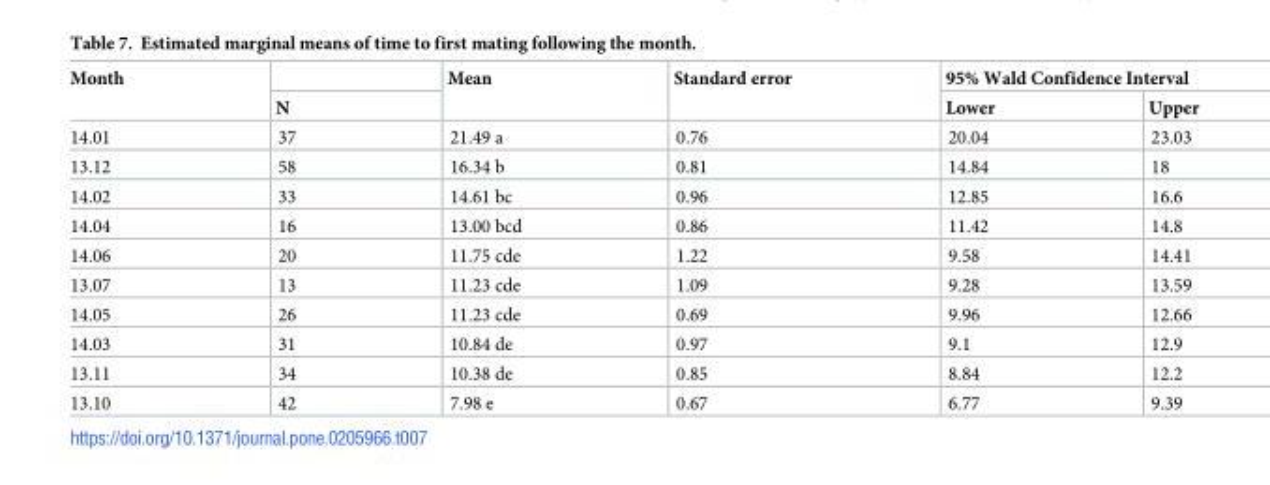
<table><thead><tr><td rowspan="2">Month</td><td rowspan="2">N</td><td rowspan="2">Mean</td><td rowspan="2">Standard error</td><td colspan="2">95% Wald Confidence Interval</td></tr><tr><td>Lower</td><td>Upper</td></tr></thead><tbody><tr><td>14.01</td><td>37</td><td>21.49 a</td><td>0.76</td><td>20.04</td><td>23.03</td></tr><tr><td>13.12</td><td>58</td><td>16.34 b</td><td>0.81</td><td>14.84</td><td>18</td></tr><tr><td>14.02</td><td>33</td><td>14.61 bc</td><td>0.96</td><td>12.85</td><td>16.6</td></tr><tr><td>14.04</td><td>16</td><td>13.00 bcd</td><td>0.86</td><td>11.42</td><td>14.8</td></tr><tr><td>14.06</td><td>20</td><td>11.75 cde</td><td>1.22</td><td>9.58</td><td>14.41</td></tr><tr><td>13.07</td><td>13</td><td>11.23 cde</td><td>1.09</td><td>9.28</td><td>13.59</td></tr><tr><td>14.05</td><td>26</td><td>11.23 cde</td><td>0.69</td><td>9.96</td><td>12.66</td></tr><tr><td>14.03</td><td>31</td><td>10.84 de</td><td>0.97</td><td>9.1</td><td>12.9</td></tr><tr><td>13.11</td><td>34</td><td>10.38 de</td><td>0.85</td><td>8.84</td><td>12.2</td></tr><tr><td>13.10</td><td>42</td><td>7.98 e</td><td>0.67</td><td>6.77</td><td>9.39</td></tr></tbody></table>